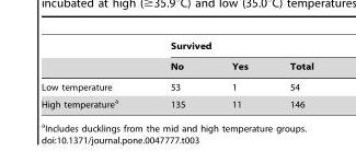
<table><thead><tr><td rowspan="2"></td><td colspan="3">Survived</td></tr><tr><td>No</td><td>Yes</td><td>Total</td></tr></thead><tbody><tr><td>Low temperature</td><td>53</td><td>1</td><td>54</td></tr><tr><td>High temperature<sup>a</sup></td><td>135</td><td>11</td><td>146</td></tr></tbody></table>